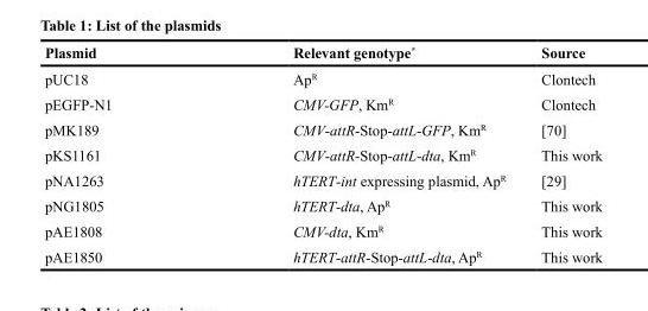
<table><thead><tr><td>Plasmid</td><td>Relevant genotype*</td><td>Source</td></tr></thead><tbody><tr><td>pUC18</td><td>ApR</td><td>Clontech</td></tr><tr><td>pEGFP-N1</td><td>CMV-GFP, KmR</td><td>Clontech</td></tr><tr><td>pMK189</td><td>CMV-attR-Stop-attL-GFP, KmR</td><td>[70]</td></tr><tr><td>pKS1161</td><td>CMV-attR-Stop-attL-dta, KmR</td><td>This work</td></tr><tr><td>pNA1263</td><td>hTERT-int expressing plasmid, ApR</td><td>[29]</td></tr><tr><td>pNG1805</td><td>hTERT-dta, ApR</td><td>This work</td></tr><tr><td>pAE1808</td><td>CMV-dta, KmR</td><td>This work</td></tr><tr><td>pAE1850</td><td>hTERT-attR-Stop-attL-dta, ApR</td><td>This work</td></tr></tbody></table>